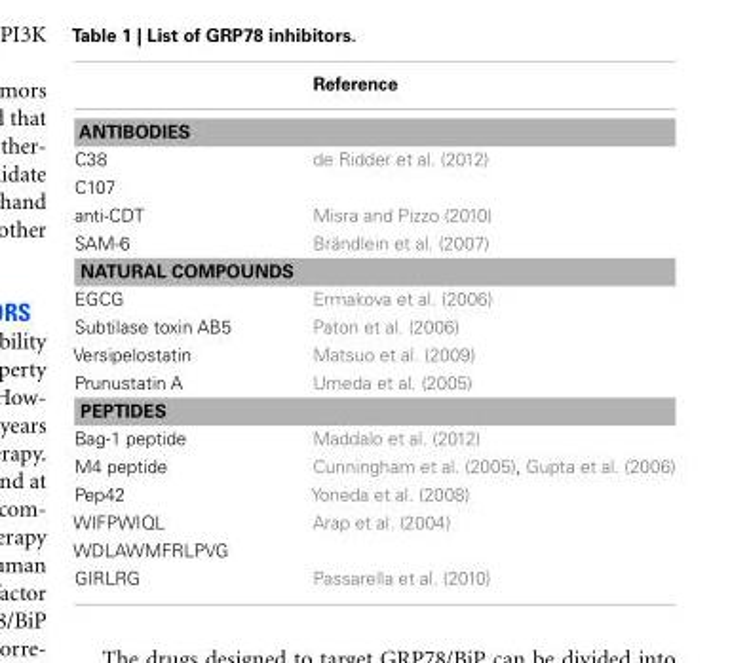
<table><thead><tr><td></td><td>Reference</td></tr></thead><tbody><tr><td colspan="2">ANTIBODIES</td></tr><tr><td>C38</td><td>de Ridder et al. (2012)</td></tr><tr><td colspan="2">C107</td></tr><tr><td>anti-CDT</td><td>Misra and Pizzo (2010)</td></tr><tr><td>SAM-6</td><td>Brändlein et al. (2007)</td></tr><tr><td colspan="2">NATURAL COMPOUNDS</td></tr><tr><td>EGCG</td><td>Ermakova et al. (2006)</td></tr><tr><td>Subtilase toxin AB5</td><td>Paton et al. (2006)</td></tr><tr><td>Versipelostatin</td><td>Matsuo et al. (2009)</td></tr><tr><td>Prunustatin A</td><td>Umeda et al. (2005)</td></tr><tr><td colspan="2">PEPTIDES</td></tr><tr><td>Bag-1 peptide</td><td>Maddalo et al. (2012)</td></tr><tr><td>M4 peptide</td><td>Cunningham et al. (2005), Gupta et al. (2006)</td></tr><tr><td>Pep42</td><td>Yoneda et al. (2008)</td></tr><tr><td>WIFPWIQL</td><td>Arap et al. (2004)</td></tr><tr><td colspan="2">WDLAWMFRLPVG</td></tr><tr><td>GIRLRG</td><td>Passarella et al. (2010)</td></tr></tbody></table>